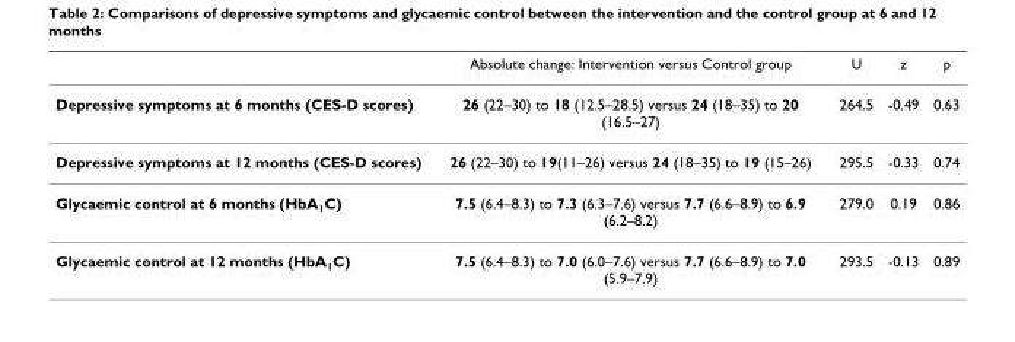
<table><thead><tr><td></td><td>Absolute change: Intervention versus Control group</td><td>U</td><td>z</td><td>p</td></tr></thead><tbody><tr><td>Depressive symptoms at 6 months (CES-D scores)</td><td>26 (22–30) to 18 (12.5–28.5) versus 24 (18–35) to 20 (16.5–27)</td><td>264.5</td><td>-0.49</td><td>0.63</td></tr><tr><td>Depressive symptoms at 12 months (CES-D scores)</td><td>26 (22–30) to 19(11–26) versus 24 (18–35) to 19 (15–26)</td><td>295.5</td><td>-0.33</td><td>0.74</td></tr><tr><td>Glycaemic control at 6 months (HbA<sub>1</sub>C)</td><td>7.5 (6.4–8.3) to 7.3 (6.3–7.6) versus 7.7 (6.6–8.9) to 6.9 (6.2–8.2)</td><td>279.0</td><td>0.19</td><td>0.86</td></tr><tr><td>Glycaemic control at 12 months (HbA<sub>1</sub>C)</td><td>7.5 (6.4–8.3) to 7.0 (6.0–7.6) versus 7.7 (6.6–8.9) to 7.0 (5.9–7.9)</td><td>293.5</td><td>-0.13</td><td>0.89</td></tr></tbody></table>